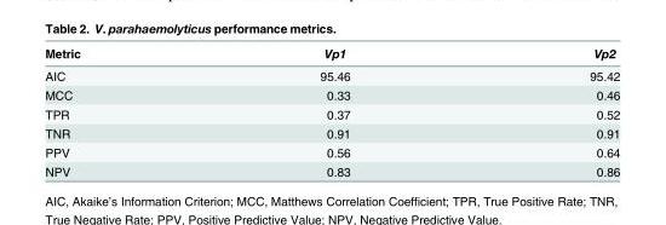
<table><thead><tr><td>Metric</td><td>Vp1</td><td>Vp2</td></tr></thead><tbody><tr><td>AIC</td><td>95.46</td><td>95.42</td></tr><tr><td>MCC</td><td>0.33</td><td>0.46</td></tr><tr><td>TPR</td><td>0.37</td><td>0.52</td></tr><tr><td>TNR</td><td>0.91</td><td>0.91</td></tr><tr><td>PPV</td><td>0.56</td><td>0.64</td></tr><tr><td>NPV</td><td>0.83</td><td>0.86</td></tr></tbody></table>